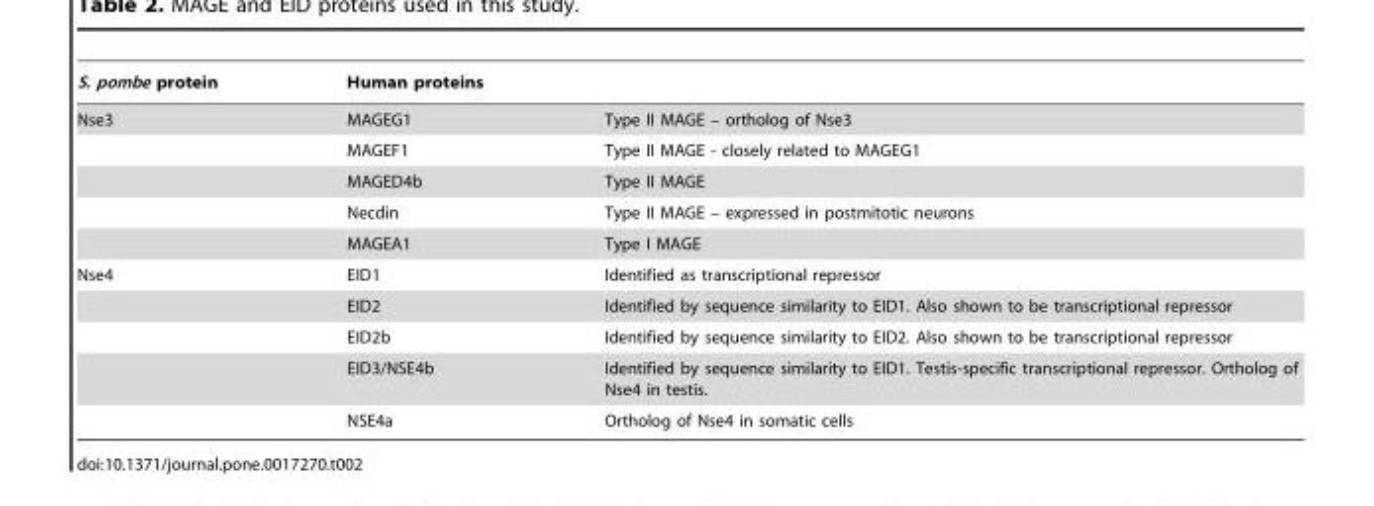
<table><thead><tr><td>S. pombe protein</td><td>Human proteins</td><td></td></tr></thead><tbody><tr><td rowspan="5">Nse3</td><td>MAGEG1</td><td>Type II MAGE – ortholog of Nse3</td></tr><tr><td>MAGEF1</td><td>Type II MAGE - closely related to MAGEG1</td></tr><tr><td>MAGED4b</td><td>Type II MAGE</td></tr><tr><td>Necdin</td><td>Type II MAGE – expressed in postmitotic neurons</td></tr><tr><td>MAGEA1</td><td>Type I MAGE</td></tr><tr><td rowspan="5">Nse4</td><td>EID1</td><td>Identified as transcriptional repressor</td></tr><tr><td>EID2</td><td>Identified by sequence similarity to EID1. Also shown to be transcriptional repressor</td></tr><tr><td>EID2b</td><td>Identified by sequence similarity to EID2. Also shown to be transcriptional repressor</td></tr><tr><td>EID3/NSE4b</td><td>Identified by sequence similarity to EID1. Testis-specific transcriptional repressor. Ortholog of Nse4 in testis.</td></tr><tr><td>NSE4a</td><td>Ortholog of Nse4 in somatic cells</td></tr></tbody></table>